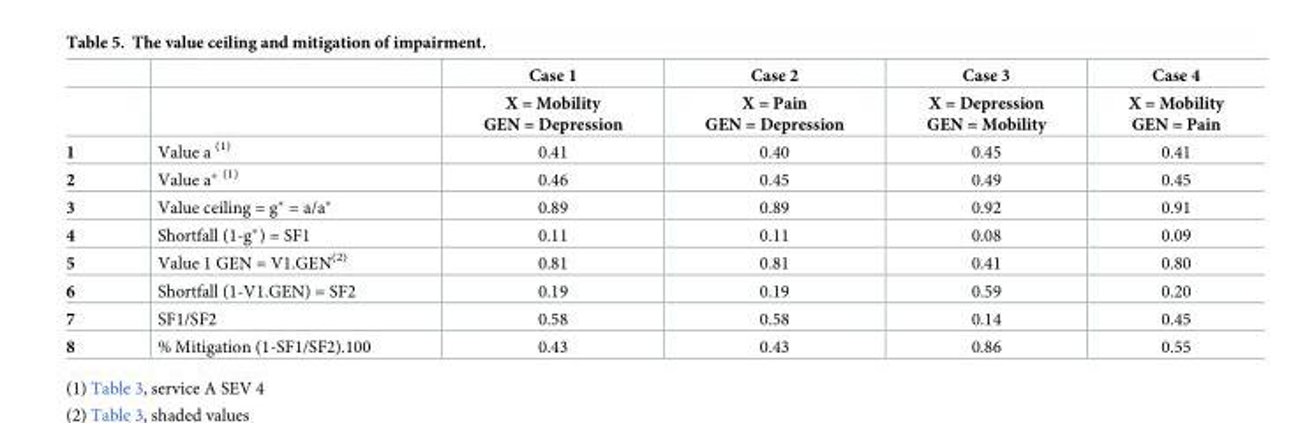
<table><thead><tr><td rowspan="2"></td><td rowspan="2"></td><td rowspan="2">Case 1 X = Mobility GEN = Depression</td><td rowspan="2">Case 2 X = Pain GEN = Depression</td><td rowspan="2">Case 3 X = Depression GEN = Mobility</td><td rowspan="2">Case 4 X = Mobility GEN = Pain</td></tr><tr></tr></thead><tbody><tr><td>1</td><td>Value a <sup>(1)</sup></td><td>0.41</td><td>0.40</td><td>0.45</td><td>0.41</td></tr><tr><td>2</td><td>Value a* <sup>(1)</sup></td><td>0.46</td><td>0.45</td><td>0.49</td><td>0.45</td></tr><tr><td>3</td><td>Value ceiling = g* = a/a*</td><td>0.89</td><td>0.89</td><td>0.92</td><td>0.91</td></tr><tr><td>4</td><td>Shortfall (1-g*) = SF1</td><td>0.11</td><td>0.11</td><td>0.08</td><td>0.09</td></tr><tr><td>5</td><td>Value 1 GEN = V1.GEN<sup>(2)</sup></td><td>0.81</td><td>0.81</td><td>0.41</td><td>0.80</td></tr><tr><td>6</td><td>Shortfall (1-V1.GEN) = SF2</td><td>0.19</td><td>0.19</td><td>0.59</td><td>0.20</td></tr><tr><td>7</td><td>SF1/SF2</td><td>0.58</td><td>0.58</td><td>0.14</td><td>0.45</td></tr><tr><td>8</td><td>% Mitigation (1-SF1/SF2).100</td><td>0.43</td><td>0.43</td><td>0.86</td><td>0.55</td></tr></tbody></table>